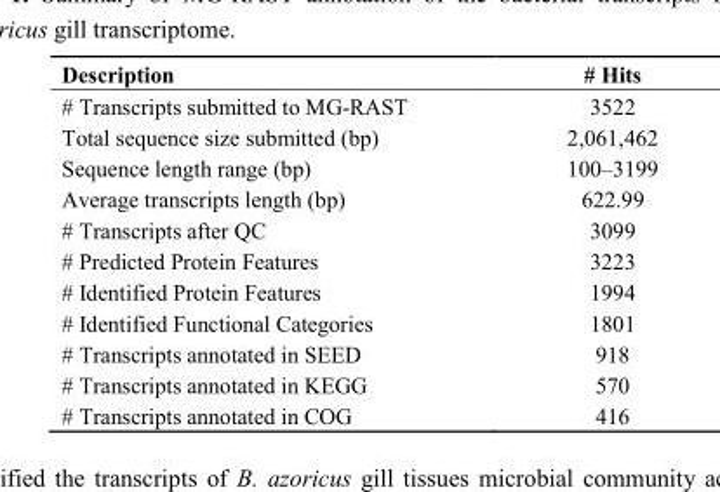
<table><thead><tr><td>Description</td><td># Hits</td></tr></thead><tbody><tr><td># Transcripts submitted to MG-RAST</td><td>3522</td></tr><tr><td>Total sequence size submitted (bp)</td><td>2,061,462</td></tr><tr><td>Sequence length range (bp)</td><td>100–3199</td></tr><tr><td>Average transcripts length (bp)</td><td>622.99</td></tr><tr><td># Transcripts after QC</td><td>3099</td></tr><tr><td># Predicted Protein Features</td><td>3223</td></tr><tr><td># Identified Protein Features</td><td>1994</td></tr><tr><td># Identified Functional Categories</td><td>1801</td></tr><tr><td># Transcripts annotated in SEED</td><td>918</td></tr><tr><td># Transcripts annotated in KEGG</td><td>570</td></tr><tr><td># Transcripts annotated in COG</td><td>416</td></tr></tbody></table>